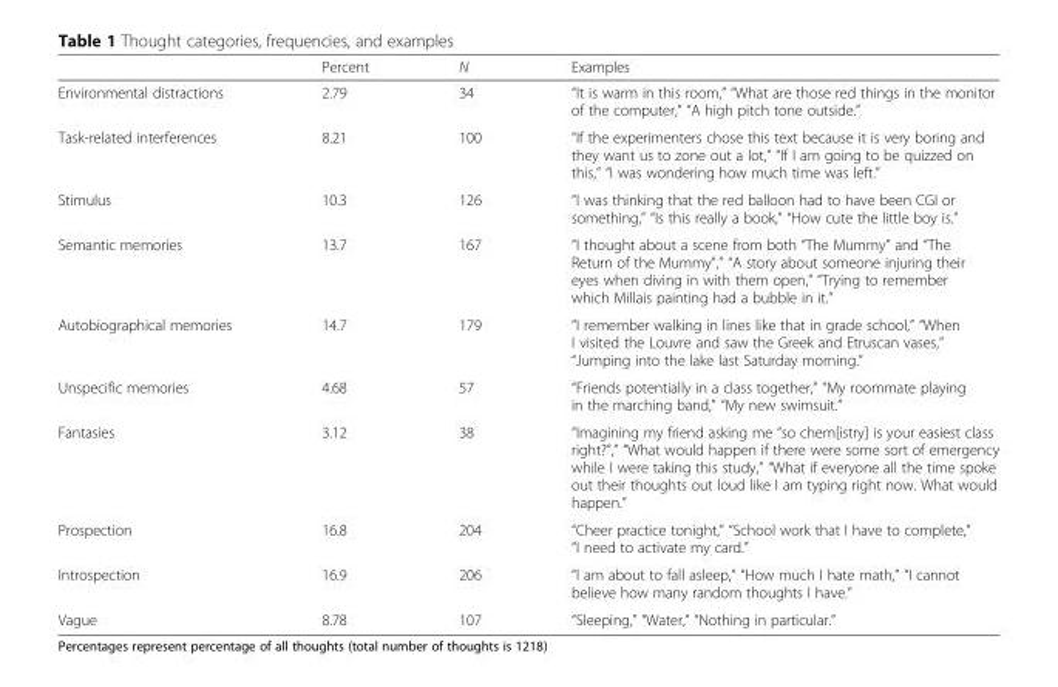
<table><thead><tr><td></td><td>Percent</td><td>N</td><td>Examples</td></tr></thead><tbody><tr><td>Environmental distractions</td><td>2.79</td><td>34</td><td>“It is warm in this room,” “What are those red things in the monitor of the computer,” “A high pitch tone outside.”</td></tr><tr><td>Task-related interferences</td><td>8.21</td><td>100</td><td>“If the experimenters chose this text because it is very boring and they want us to zone out a lot,” “If I am going to be quizzed on this,” “I was wondering how much time was left.”</td></tr><tr><td>Stimulus</td><td>10.3</td><td>126</td><td>“I was thinking that the red balloon had to have been CGI or something,” “Is this really a book,” “How cute the little boy is.”</td></tr><tr><td>Semantic memories</td><td>13.7</td><td>167</td><td>“I thought about a scene from both “The Mummy” and “The Return of the Mummy”,” “A story about someone injuring their eyes when diving in with them open,” “Trying to remember which Millais painting had a bubble in it.”</td></tr><tr><td>Autobiographical memories</td><td>14.7</td><td>179</td><td>“I remember walking in lines like that in grade school,” “When I visited the Louvre and saw the Greek and Etruscan vases,” “Jumping into the lake last Saturday morning.”</td></tr><tr><td>Unspecific memories</td><td>4.68</td><td>57</td><td>“Friends potentially in a class together,” “My roommate playing in the marching band,” “My new swimsuit.”</td></tr><tr><td>Fantasies</td><td>3.12</td><td>38</td><td>“Imagining my friend asking me “so chem[istry] is your easiest class right?”,” “What would happen if there were some sort of emergency while I were taking this study,” “What if everyone all the time spoke out their thoughts out loud like I am typing right now. What would happen.”</td></tr><tr><td>Prospection</td><td>16.8</td><td>204</td><td>“Cheer practice tonight,” “School work that I have to complete,” “I need to activate my card.”</td></tr><tr><td>Introspection</td><td>16.9</td><td>206</td><td>“I am about to fall asleep,” “How much I hate math,” “I cannot believe how many random thoughts I have.”</td></tr><tr><td>Vague</td><td>8.78</td><td>107</td><td>“Sleeping,” “Water,” “Nothing in particular.”</td></tr></tbody></table>